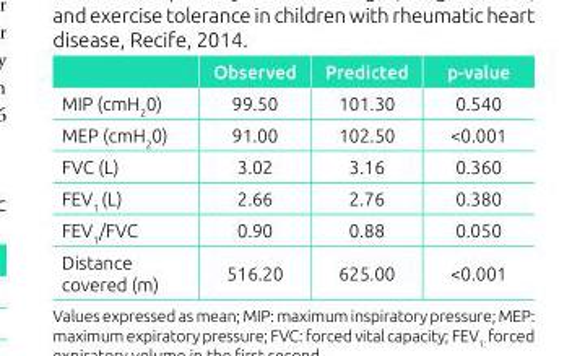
<table><thead><tr><td></td><td>Observed</td><td>Predicted</td><td>p-value</td></tr></thead><tbody><tr><td>MIP (cmH<sub>2</sub>0)</td><td>99.50</td><td>101.30</td><td>0.540</td></tr><tr><td>MEP (cmH<sub>2</sub>0)</td><td>91.00</td><td>102.50</td><td>&lt;0.001</td></tr><tr><td>FVC (L)</td><td>3.02</td><td>3.16</td><td>0.360</td></tr><tr><td>FEV<sub>1</sub> (L)</td><td>2.66</td><td>2.76</td><td>0.380</td></tr><tr><td>FEV<sub>1</sub>/FVC</td><td>0.90</td><td>0.88</td><td>0.050</td></tr><tr><td>Distance covered (m)</td><td>516.20</td><td>625.00</td><td>&lt;0.001</td></tr></tbody></table>